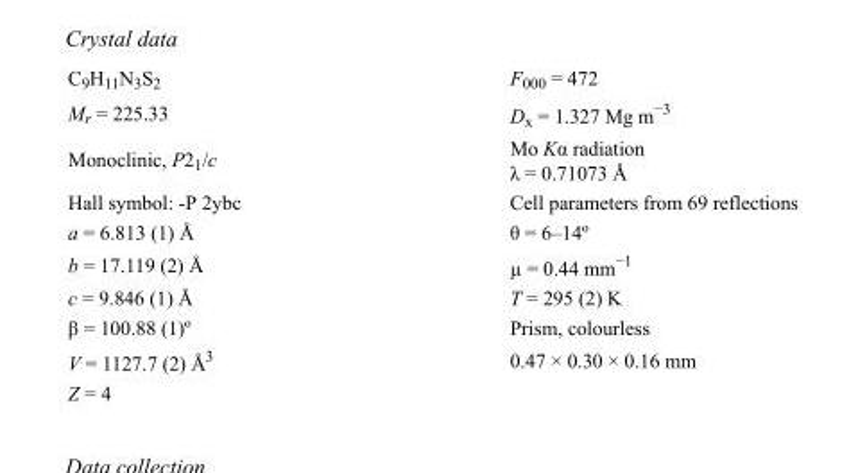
<table><tbody><tr><td>C<sub>9</sub>H<sub>11</sub>N<sub>3</sub>S<sub>2</sub></td><td>F000 = 472</td></tr><tr><td>M<sub>r</sub> = 225.33</td><td>D<sub>x</sub> = 1.327 Mg m<sup>−3</sup></td></tr><tr><td>Monoclinic, P2<sub>1</sub>/c</td><td>Mo Kα radiation λ = 0.71073 Å</td></tr><tr><td>Hall symbol: -P 2ybc</td><td>Cell parameters from 69 reflections</td></tr><tr><td>a = 6.813 (1) Å</td><td>θ = 6–14º</td></tr><tr><td>b = 17.119 (2) Å</td><td>µ = 0.44 mm<sup>−1</sup></td></tr><tr><td>c = 9.846 (1) Å</td><td>T = 295 (2) K</td></tr><tr><td>β = 100.88 (1)º</td><td>Prism, colourless</td></tr><tr><td>V = 1127.7 (2) Å<sup>3</sup></td><td>0.47 × 0.30 × 0.16 mm</td></tr><tr><td>Z = 4</td><td></td></tr></tbody></table>